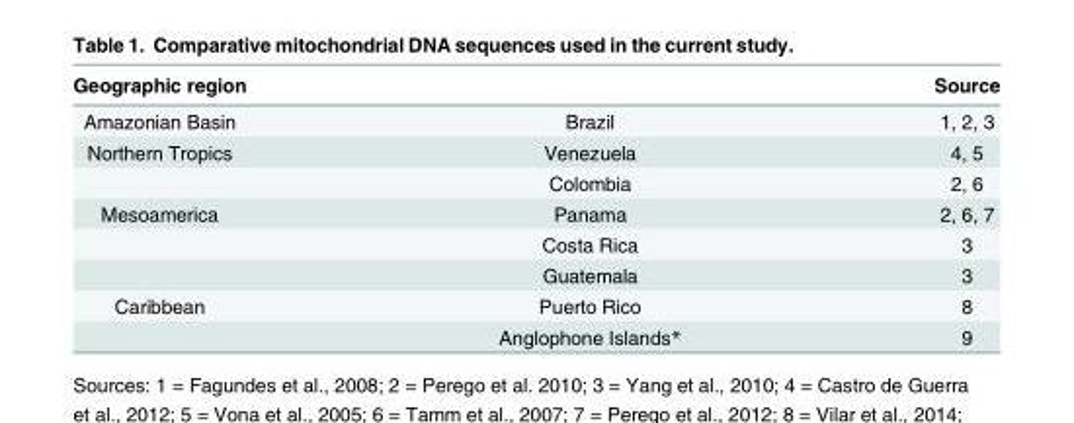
<table><thead><tr><td>Geographic region</td><td></td><td>Source</td></tr></thead><tbody><tr><td>Amazonian Basin</td><td>Brazil</td><td>1, 2, 3</td></tr><tr><td rowspan="2">Northern Tropics</td><td>Venezuela</td><td>4, 5</td></tr><tr><td>Colombia</td><td>2, 6</td></tr><tr><td rowspan="3">Mesoamerica</td><td>Panama</td><td>2, 6, 7</td></tr><tr><td>Costa Rica</td><td>3</td></tr><tr><td>Guatemala</td><td>3</td></tr><tr><td rowspan="2">Caribbean</td><td>Puerto Rico</td><td>8</td></tr><tr><td>Anglophone Islands*</td><td>9</td></tr></tbody></table>